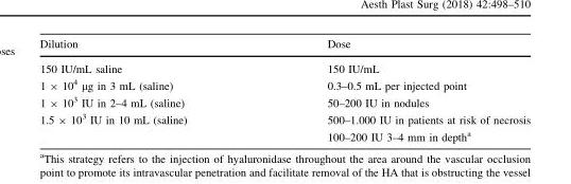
<table><thead><tr><td>Dilution</td><td>Dose</td></tr></thead><tbody><tr><td>150 IU/mL saline</td><td>150 IU/mL</td></tr><tr><td>1 × 10<sup>4</sup> µg in 3 mL (saline)</td><td>0.3–0.5 mL per injected point</td></tr><tr><td>1 × 10<sup>3</sup> IU in 2–4 mL (saline)</td><td>50–200 IU in nodules</td></tr><tr><td rowspan="2">1.5 × 10<sup>3</sup> IU in 10 mL (saline)</td><td>500–1.000 IU in patients at risk of necrosis</td></tr><tr><td>100–200 IU 3–4 mm in depth<sup>a</sup></td></tr></tbody></table>